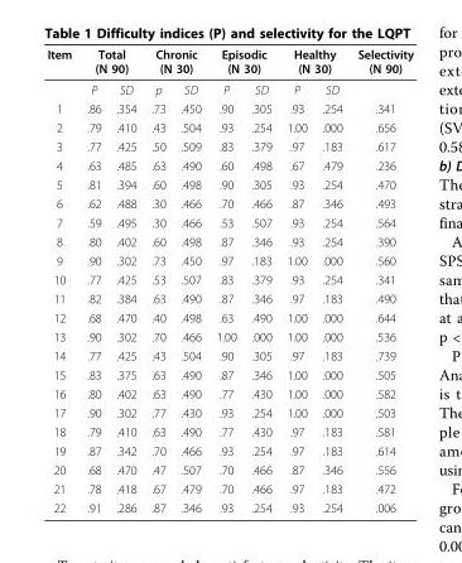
<table><thead><tr><td rowspan="2">Item</td><td colspan="2">Total (N 90)</td><td colspan="2">Chronic (N 30)</td><td colspan="2">Episodic (N 30)</td><td colspan="2">Healthy (N 30)</td><td rowspan="2">Selectivity (N 90)</td></tr><tr><td>P</td><td>SD</td><td>p</td><td>SD</td><td>P</td><td>SD</td><td>P</td><td>SD</td></tr></thead><tbody><tr><td>1</td><td>.86</td><td>.354</td><td>.73</td><td>.450</td><td>.90</td><td>.305</td><td>.93</td><td>.254</td><td>.341</td></tr><tr><td>2</td><td>.79</td><td>.410</td><td>.43</td><td>.504</td><td>.93</td><td>.254</td><td>1.00</td><td>.000</td><td>.656</td></tr><tr><td>3</td><td>.77</td><td>.425</td><td>.50</td><td>.509</td><td>.83</td><td>.379</td><td>.97</td><td>.183</td><td>.617</td></tr><tr><td>4</td><td>.63</td><td>.485</td><td>.63</td><td>.490</td><td>.60</td><td>.498</td><td>.67</td><td>.479</td><td>.236</td></tr><tr><td>5</td><td>.81</td><td>.394</td><td>.60</td><td>.498</td><td>.90</td><td>.305</td><td>.93</td><td>.254</td><td>.470</td></tr><tr><td>6</td><td>.62</td><td>.488</td><td>.30</td><td>.466</td><td>.70</td><td>.466</td><td>.87</td><td>.346</td><td>.493</td></tr><tr><td>7</td><td>.59</td><td>.495</td><td>.30</td><td>.466</td><td>.53</td><td>.507</td><td>.93</td><td>.254</td><td>.564</td></tr><tr><td>8</td><td>.80</td><td>.402</td><td>.60</td><td>.498</td><td>.87</td><td>.346</td><td>.93</td><td>.254</td><td>.390</td></tr><tr><td>9</td><td>.90</td><td>.302</td><td>.73</td><td>.450</td><td>.97</td><td>.183</td><td>1.00</td><td>.000</td><td>.560</td></tr><tr><td>10</td><td>.77</td><td>.425</td><td>.53</td><td>.507</td><td>.83</td><td>.379</td><td>.93</td><td>.254</td><td>.341</td></tr><tr><td>11</td><td>.82</td><td>.384</td><td>.63</td><td>.490</td><td>.87</td><td>.346</td><td>.97</td><td>.183</td><td>.490</td></tr><tr><td>12</td><td>.68</td><td>.470</td><td>.40</td><td>.498</td><td>.63</td><td>.490</td><td>1.00</td><td>.000</td><td>.644</td></tr><tr><td>13</td><td>.90</td><td>.302</td><td>.70</td><td>.466</td><td>1.00</td><td>.000</td><td>1.00</td><td>.000</td><td>.536</td></tr><tr><td>14</td><td>.77</td><td>.425</td><td>.43</td><td>.504</td><td>.90</td><td>.305</td><td>.97</td><td>.183</td><td>.739</td></tr><tr><td>15</td><td>.83</td><td>.375</td><td>.63</td><td>.490</td><td>.87</td><td>.346</td><td>1.00</td><td>.000</td><td>.505</td></tr><tr><td>16</td><td>.80</td><td>.402</td><td>.63</td><td>.490</td><td>.77</td><td>.430</td><td>1.00</td><td>.000</td><td>.582</td></tr><tr><td>17</td><td>.90</td><td>.302</td><td>.77</td><td>.430</td><td>.93</td><td>.254</td><td>1.00</td><td>.000</td><td>.503</td></tr><tr><td>18</td><td>.79</td><td>.410</td><td>.63</td><td>.490</td><td>.77</td><td>.430</td><td>.97</td><td>.183</td><td>.581</td></tr><tr><td>19</td><td>.87</td><td>.342</td><td>.70</td><td>.466</td><td>.93</td><td>.254</td><td>.97</td><td>.183</td><td>.614</td></tr><tr><td>20</td><td>.68</td><td>.470</td><td>.47</td><td>.507</td><td>.70</td><td>.466</td><td>.87</td><td>.346</td><td>.556</td></tr><tr><td>21</td><td>.78</td><td>.418</td><td>.67</td><td>.479</td><td>.70</td><td>.466</td><td>.97</td><td>.183</td><td>.472</td></tr><tr><td>22</td><td>.91</td><td>.286</td><td>.87</td><td>.346</td><td>.93</td><td>.254</td><td>.93</td><td>.254</td><td>.006</td></tr></tbody></table>